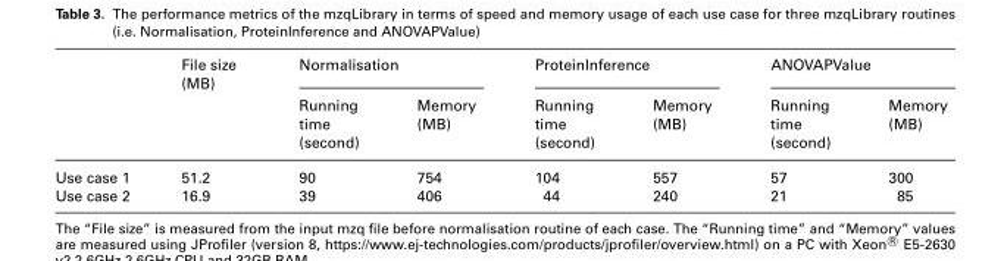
<table><thead><tr><td rowspan="2"></td><td rowspan="2">File size (MB)</td><td colspan="2">Normalisation</td><td colspan="2">ProteinInference</td><td colspan="2">ANOVAPValue</td></tr><tr><td>Running time (second)</td><td>Memory (MB)</td><td>Running time (second)</td><td>Memory (MB)</td><td>Running time (second)</td><td>Memory (MB)</td></tr></thead><tbody><tr><td>Use case 1</td><td>51.2</td><td>90</td><td>754</td><td>104</td><td>557</td><td>57</td><td>300</td></tr><tr><td>Use case 2</td><td>16.9</td><td>39</td><td>406</td><td>44</td><td>240</td><td>21</td><td>85</td></tr></tbody></table>